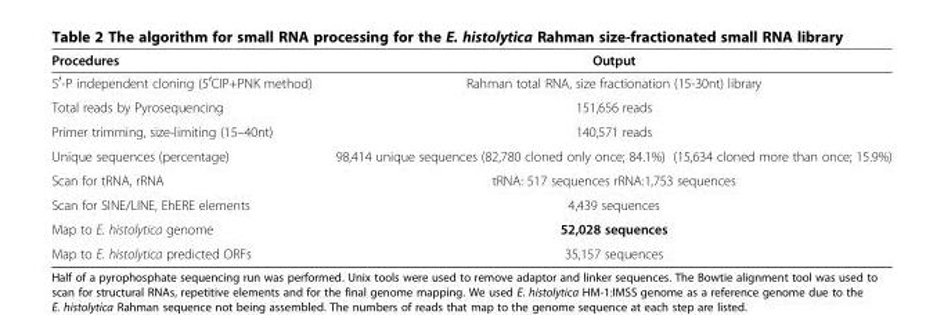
<table><thead><tr><td>Procedures</td><td>Output</td></tr></thead><tbody><tr><td>5<sup>′</sup>-P independent cloning (5<sup>′</sup>CIP+PNK method)</td><td>Rahman total RNA, size fractionation (15-30nt) library</td></tr><tr><td>Total reads by Pyrosequencing</td><td>151,656 reads</td></tr><tr><td>Primer trimming, size-limiting (15–40nt)</td><td>140,571 reads</td></tr><tr><td>Unique sequences (percentage)</td><td>98,414 unique sequences (82,780 cloned only once; 84.1%) (15,634 cloned more than once; 15.9%)</td></tr><tr><td>Scan for tRNA, rRNA</td><td>tRNA: 517 sequences rRNA:1,753 sequences</td></tr><tr><td>Scan for SINE/LINE, EhERE elements</td><td>4,439 sequences</td></tr><tr><td>Map to E. histolytica genome</td><td>52,028 sequences</td></tr><tr><td>Map to E. histolytica predicted ORFs</td><td>35,157 sequences</td></tr></tbody></table>